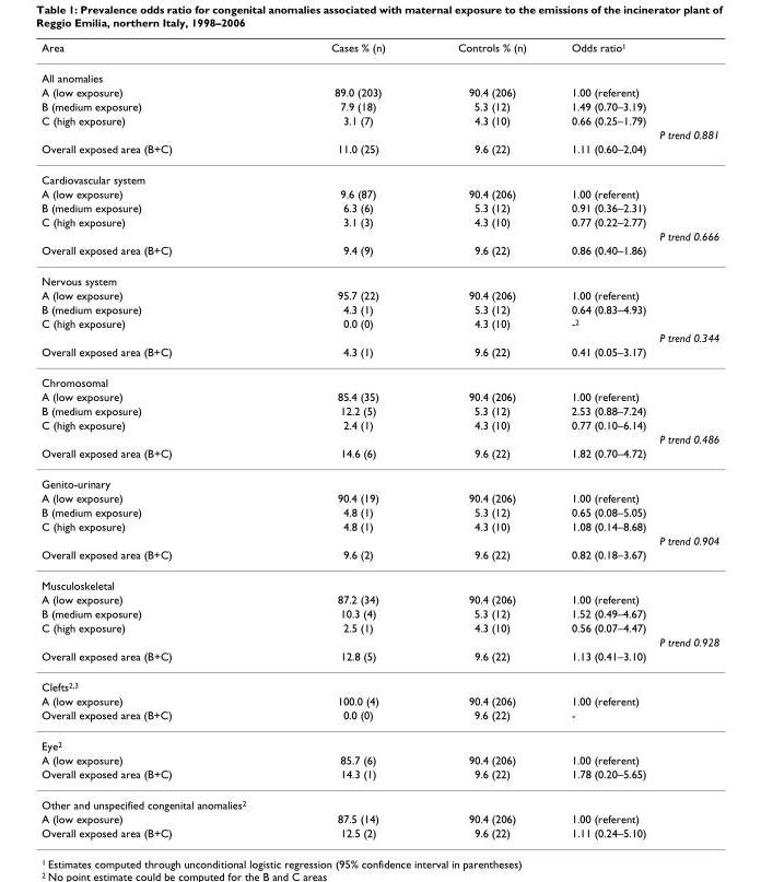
<table><thead><tr><td>Area</td><td>Cases % (n)</td><td>Controls % (n)</td><td>Odds ratio<sup>1</sup></td></tr></thead><tbody><tr><td colspan="4">All anomalies</td></tr><tr><td>A (low exposure)</td><td>89.0 (203)</td><td>90.4 (206)</td><td>1.00 (referent)</td></tr><tr><td>B (medium exposure)</td><td>7.9 (18)</td><td>5.3 (12)</td><td>1.49 (0.70–3.19)</td></tr><tr><td rowspan="2">C (high exposure)</td><td>3.1 (7)</td><td>4.3 (10)</td><td>0.66 (0.25–1.79)</td></tr><tr><td></td><td></td><td>P trend 0.881</td></tr><tr><td>Overall exposed area (B+C)</td><td>11.0 (25)</td><td>9.6 (22)</td><td>1.11 (0.60–2,04)</td></tr><tr><td colspan="4">Cardiovascular system</td></tr><tr><td>A (low exposure)</td><td>9.6 (87)</td><td>90.4 (206)</td><td>1.00 (referent)</td></tr><tr><td>B (medium exposure)</td><td>6.3 (6)</td><td>5.3 (12)</td><td>0.91 (0.36–2.31)</td></tr><tr><td rowspan="2">C (high exposure)</td><td>3.1 (3)</td><td>4.3 (10)</td><td>0.77 (0.22–2.77)</td></tr><tr><td></td><td></td><td>P trend 0.666</td></tr><tr><td>Overall exposed area (B+C)</td><td>9.4 (9)</td><td>9.6 (22)</td><td>0.86 (0.40–1.86)</td></tr><tr><td colspan="4">Nervous system</td></tr><tr><td>A (low exposure)</td><td>95.7 (22)</td><td>90.4 (206)</td><td>1.00 (referent)</td></tr><tr><td>B (medium exposure)</td><td>4.3 (1)</td><td>5.3 (12)</td><td>0.64 (0.83–4.93)</td></tr><tr><td rowspan="2">C (high exposure)</td><td>0.0 (0)</td><td>4.3 (10)</td><td>-<sup>2</sup></td></tr><tr><td></td><td></td><td>P trend 0.344</td></tr><tr><td>Overall exposed area (B+C)</td><td>4.3 (1)</td><td>9.6 (22)</td><td>0.41 (0.05–3.17)</td></tr><tr><td colspan="4">Chromosomal</td></tr><tr><td>A (low exposure)</td><td>85.4 (35)</td><td>90.4 (206)</td><td>1.00 (referent)</td></tr><tr><td>B (medium exposure)</td><td>12.2 (5)</td><td>5.3 (12)</td><td>2.53 (0.88–7.24)</td></tr><tr><td rowspan="2">C (high exposure)</td><td>2.4 (1)</td><td>4.3 (10)</td><td>0.77 (0.10–6.14)</td></tr><tr><td></td><td></td><td>P trend 0.486</td></tr><tr><td>Overall exposed area (B+C)</td><td>14.6 (6)</td><td>9.6 (22)</td><td>1.82 (0.70–4.72)</td></tr><tr><td colspan="4">Genito-urinary</td></tr><tr><td>A (low exposure)</td><td>90.4 (19)</td><td>90.4 (206)</td><td>1.00 (referent)</td></tr><tr><td>B (medium exposure)</td><td>4.8 (1)</td><td>5.3 (12)</td><td>0.65 (0.08–5.05)</td></tr><tr><td rowspan="2">C (high exposure)</td><td>4.8 (1)</td><td>4.3 (10)</td><td>1.08 (0.14–8.68)</td></tr><tr><td></td><td></td><td>P trend 0.904</td></tr><tr><td>Overall exposed area (B+C)</td><td>9.6 (2)</td><td>9.6 (22)</td><td>0.82 (0.18–3.67)</td></tr><tr><td colspan="4">Musculoskeletal</td></tr><tr><td>A (low exposure)</td><td>87.2 (34)</td><td>90.4 (206)</td><td>1.00 (referent)</td></tr><tr><td>B (medium exposure)</td><td>10.3 (4)</td><td>5.3 (12)</td><td>1.52 (0.49–4.67)</td></tr><tr><td rowspan="2">C (high exposure)</td><td>2.5 (1)</td><td>4.3 (10)</td><td>0.56 (0.07–4.47)</td></tr><tr><td></td><td></td><td>P trend 0.928</td></tr><tr><td>Overall exposed area (B+C)</td><td>12.8 (5)</td><td>9.6 (22)</td><td>1.13 (0.41–3.10)</td></tr><tr><td colspan="4">Clefts<sup>2,3</sup></td></tr><tr><td>A (low exposure)</td><td>100.0 (4)</td><td>90.4 (206)</td><td>1.00 (referent)</td></tr><tr><td>Overall exposed area (B+C)</td><td>0.0 (0)</td><td>9.6 (22)</td><td>-</td></tr><tr><td colspan="4">Eye<sup>2</sup></td></tr><tr><td>A (low exposure)</td><td>85.7 (6)</td><td>90.4 (206)</td><td>1.00 (referent)</td></tr><tr><td>Overall exposed area (B+C)</td><td>14.3 (1)</td><td>9.6 (22)</td><td>1.78 (0.20–5.65)</td></tr><tr><td colspan="4">Other and unspecified congenital anomalies<sup>2</sup></td></tr><tr><td>A (low exposure)</td><td>87.5 (14)</td><td>90.4 (206)</td><td>1.00 (referent)</td></tr><tr><td>Overall exposed area (B+C)</td><td>12.5 (2)</td><td>9.6 (22)</td><td>1.11 (0.24–5.10)</td></tr></tbody></table>